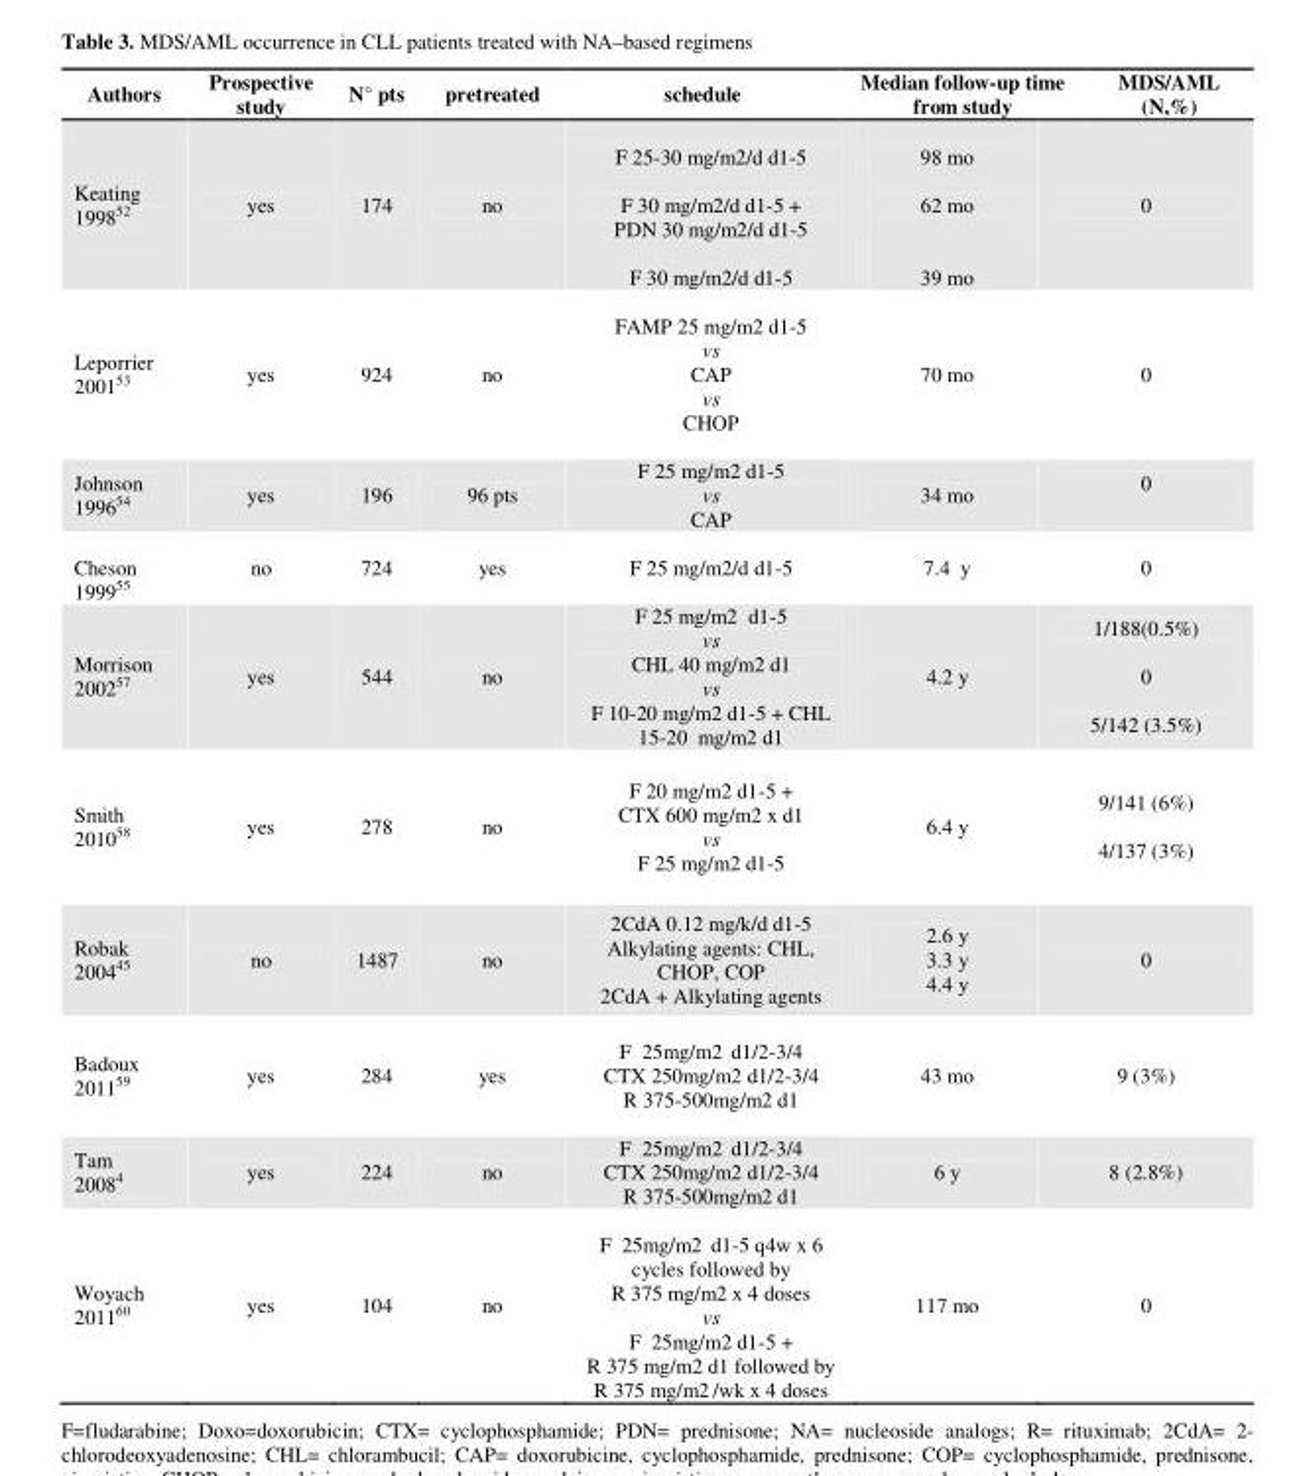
<table><thead><tr><td>Authors</td><td>Prospective study</td><td>N° pts</td><td>pretreated</td><td>schedule</td><td>Median follow-up time from study</td><td>MDS/AML (N,%)</td></tr></thead><tbody><tr><td>Keating 1998<sup>52</sup></td><td>yes</td><td>174</td><td>no</td><td>F 25-30 mg/m2/d d1-5 F 30 mg/m2/d d1-5 + PDN 30 mg/m2/d d1-5 F 30 mg/m2/d d1-5</td><td>98 mo 62 mo 39 mo</td><td>0</td></tr><tr><td>Leporrier 2001<sup>53</sup></td><td>yes</td><td>924</td><td>no</td><td>FAMP 25 mg/m2 d1-5 vs CAP vs CHOP</td><td>70 mo</td><td>0</td></tr><tr><td>Johnson 1996<sup>54</sup></td><td>yes</td><td>196</td><td>96 pts</td><td>F 25 mg/m2 d1-5 vs CAP</td><td>34 mo</td><td>0</td></tr><tr><td>Cheson 1999<sup>55</sup></td><td>no</td><td>724</td><td>yes</td><td>F 25 mg/m2/d d1-5</td><td>7.4 y</td><td>0</td></tr><tr><td>Morrison 2002<sup>57</sup></td><td>yes</td><td>544</td><td>no</td><td>F 25 mg/m2 d1-5 vs CHL 40 mg/m2 d1 vs F 10-20 mg/m2 d1-5 + CHL 15-20 mg/m2 d1</td><td>4.2 y</td><td>1/188(0.5%) 0 5/142 (3.5%)</td></tr><tr><td>Smith 2010<sup>58</sup></td><td>yes</td><td>278</td><td>no</td><td>F 20 mg/m2 d1-5 + CTX 600 mg/m2 x d1 vs F 25 mg/m2 d1-5</td><td>6.4 y</td><td>9/141 (6%) 4/137 (3%)</td></tr><tr><td>Robak 2004<sup>45</sup></td><td>no</td><td>1487</td><td>no</td><td>2CdA 0.12 mg/k/d d1-5 Alkylating agents: CHL, CHOP, COP 2CdA + Alkylating agents</td><td>2.6 y 3.3 y 4.4 y</td><td>0</td></tr><tr><td>Badoux 2011<sup>59</sup></td><td>yes</td><td>284</td><td>yes</td><td>F 25mg/m2 d1/2-3/4 CTX 250mg/m2 d1/2-3/4 R 375-500mg/m2 d1</td><td>43 mo</td><td>9 (3%)</td></tr><tr><td>Tam 2008<sup>4</sup></td><td>yes</td><td>224</td><td>no</td><td>F 25mg/m2 d1/2-3/4 CTX 250mg/m2 d1/2-3/4 R 375-500mg/m2 d1</td><td>6 y</td><td>8 (2.8%)</td></tr><tr><td>Woyach 2011<sup>60</sup></td><td>yes</td><td>104</td><td>no</td><td>F 25mg/m2 d1-5 q4w x 6 cycles followed by R 375 mg/m2 x 4 doses vs F 25mg/m2 d1-5 + R 375 mg/m2 d1 followed by R 375 mg/m2 /wk x 4 doses</td><td>117 mo</td><td>0</td></tr></tbody></table>